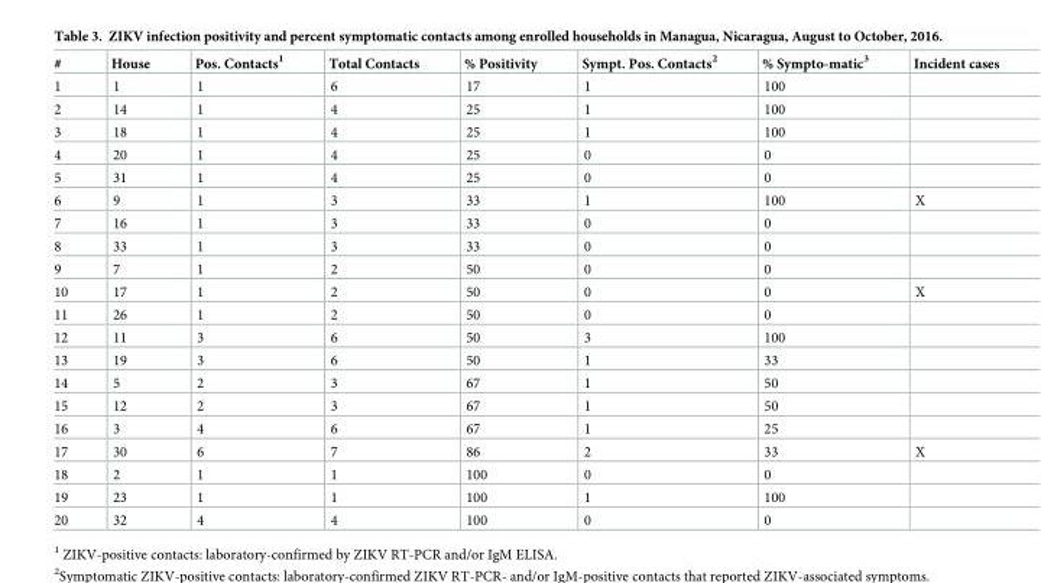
<table><thead><tr><td>#</td><td>House</td><td>Pos. Contacts<sup>1</sup></td><td>Total Contacts</td><td>% Positivity</td><td>Sympt. Pos. Contacts<sup>2</sup></td><td>% Sympto-matic<sup>3</sup></td><td>Incident cases</td></tr></thead><tbody><tr><td>1</td><td>1</td><td>1</td><td>6</td><td>17</td><td>1</td><td>100</td><td></td></tr><tr><td>2</td><td>14</td><td>1</td><td>4</td><td>25</td><td>1</td><td>100</td><td></td></tr><tr><td>3</td><td>18</td><td>1</td><td>4</td><td>25</td><td>1</td><td>100</td><td></td></tr><tr><td>4</td><td>20</td><td>1</td><td>4</td><td>25</td><td>0</td><td>0</td><td></td></tr><tr><td>5</td><td>31</td><td>1</td><td>4</td><td>25</td><td>0</td><td>0</td><td></td></tr><tr><td>6</td><td>9</td><td>1</td><td>3</td><td>33</td><td>1</td><td>100</td><td>X</td></tr><tr><td>7</td><td>16</td><td>1</td><td>3</td><td>33</td><td>0</td><td>0</td><td></td></tr><tr><td>8</td><td>33</td><td>1</td><td>3</td><td>33</td><td>0</td><td>0</td><td></td></tr><tr><td>9</td><td>7</td><td>1</td><td>2</td><td>50</td><td>0</td><td>0</td><td></td></tr><tr><td>10</td><td>17</td><td>1</td><td>2</td><td>50</td><td>0</td><td>0</td><td>X</td></tr><tr><td>11</td><td>26</td><td>1</td><td>2</td><td>50</td><td>0</td><td>0</td><td></td></tr><tr><td>12</td><td>11</td><td>3</td><td>6</td><td>50</td><td>3</td><td>100</td><td></td></tr><tr><td>13</td><td>19</td><td>3</td><td>6</td><td>50</td><td>1</td><td>33</td><td></td></tr><tr><td>14</td><td>5</td><td>2</td><td>3</td><td>67</td><td>1</td><td>50</td><td></td></tr><tr><td>15</td><td>12</td><td>2</td><td>3</td><td>67</td><td>1</td><td>50</td><td></td></tr><tr><td>16</td><td>3</td><td>4</td><td>6</td><td>67</td><td>1</td><td>25</td><td></td></tr><tr><td>17</td><td>30</td><td>6</td><td>7</td><td>86</td><td>2</td><td>33</td><td>X</td></tr><tr><td>18</td><td>2</td><td>1</td><td>1</td><td>100</td><td>0</td><td>0</td><td></td></tr><tr><td>19</td><td>23</td><td>1</td><td>1</td><td>100</td><td>1</td><td>100</td><td></td></tr><tr><td>20</td><td>32</td><td>4</td><td>4</td><td>100</td><td>0</td><td>0</td><td></td></tr></tbody></table>